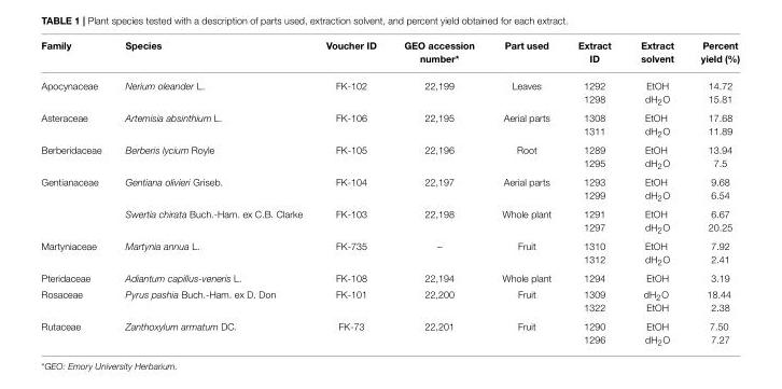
<table><thead><tr><td>Family</td><td>Species</td><td>Voucher ID</td><td>GEO accession number*</td><td>Part used</td><td>Extract ID</td><td>Extract solvent</td><td>Percent yield (%)</td></tr></thead><tbody><tr><td>Apocynaceae</td><td>Nerium oleander L.</td><td>FK-102</td><td>22,199</td><td>Leaves</td><td>1292 1298</td><td>EtOH dH<sub>2</sub>O</td><td>14.72 15.81</td></tr><tr><td>Asteraceae</td><td>Artemisia absinthium L.</td><td>FK-106</td><td>22,195</td><td>Aerial parts</td><td>1308 1311</td><td>EtOH dH<sub>2</sub>O</td><td>17.68 11.89</td></tr><tr><td>Berberidaceae</td><td>Berberis lycium Royle</td><td>FK-105</td><td>22,196</td><td>Root</td><td>1289 1295</td><td>EtOH dH<sub>2</sub>O</td><td>13.94 7.5</td></tr><tr><td rowspan="2">Gentianaceae</td><td>Gentiana olivieri Griseb.</td><td>FK-104</td><td>22,197</td><td>Aerial parts</td><td>1293 1299</td><td>EtOH dH<sub>2</sub>O</td><td>9.68 6.54</td></tr><tr><td>Swertia chirata Buch.-Ham. ex C.B. Clarke</td><td>FK-103</td><td>22,198</td><td>Whole plant</td><td>1291 1297</td><td>EtOH dH<sub>2</sub>O</td><td>6.67 20.25</td></tr><tr><td>Martyniaceae</td><td>Martynia annua L.</td><td>FK-735</td><td>–</td><td>Fruit</td><td>1310 1312</td><td>EtOH dH<sub>2</sub>O</td><td>7.92 2.41</td></tr><tr><td>Pteridaceae</td><td>Adiantum capillus-veneris L.</td><td>FK-108</td><td>22,194</td><td>Whole plant</td><td>1294</td><td>EtOH</td><td>3.19</td></tr><tr><td>Rosaceae</td><td>Pyrus pashia Buch.-Ham. ex D. Don</td><td>FK-101</td><td>22,200</td><td>Fruit</td><td>1309 1322</td><td>dH<sub>2</sub>O EtOH</td><td>18.44 2.38</td></tr><tr><td>Rutaceae</td><td>Zanthoxylum armatum DC.</td><td>FK-73</td><td>22,201</td><td>Fruit</td><td>1290 1296</td><td>EtOH dH<sub>2</sub>O</td><td>7.50 7.27</td></tr></tbody></table>